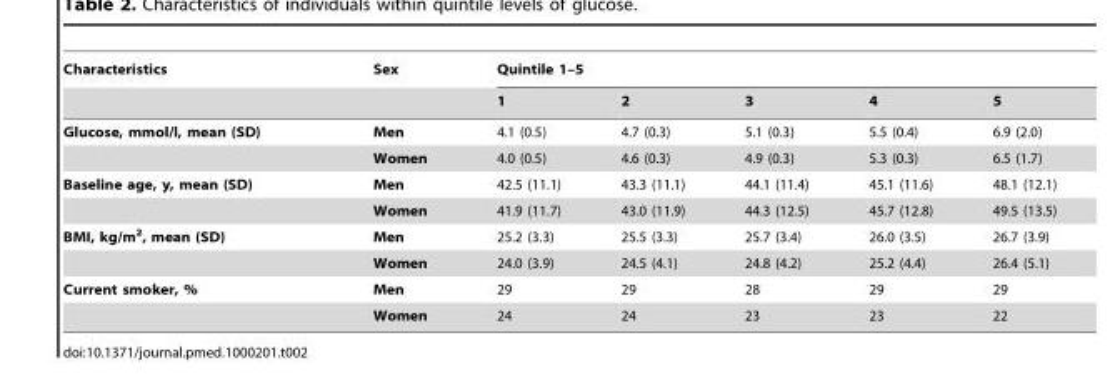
<table><thead><tr><td rowspan="2">Characteristics</td><td rowspan="2">Sex</td><td colspan="5">Quintile 1–5</td></tr><tr><td>1</td><td>2</td><td>3</td><td>4</td><td>5</td></tr></thead><tbody><tr><td rowspan="2">Glucose, mmol/l, mean (SD)</td><td>Men</td><td>4.1 (0.5)</td><td>4.7 (0.3)</td><td>5.1 (0.3)</td><td>5.5 (0.4)</td><td>6.9 (2.0)</td></tr><tr><td>Women</td><td>4.0 (0.5)</td><td>4.6 (0.3)</td><td>4.9 (0.3)</td><td>5.3 (0.3)</td><td>6.5 (1.7)</td></tr><tr><td rowspan="2">Baseline age, y, mean (SD)</td><td>Men</td><td>42.5 (11.1)</td><td>43.3 (11.1)</td><td>44.1 (11.4)</td><td>45.1 (11.6)</td><td>48.1 (12.1)</td></tr><tr><td>Women</td><td>41.9 (11.7)</td><td>43.0 (11.9)</td><td>44.3 (12.5)</td><td>45.7 (12.8)</td><td>49.5 (13.5)</td></tr><tr><td rowspan="2">BMI, kg/m<sup>2</sup>, mean (SD)</td><td>Men</td><td>25.2 (3.3)</td><td>25.5 (3.3)</td><td>25.7 (3.4)</td><td>26.0 (3.5)</td><td>26.7 (3.9)</td></tr><tr><td>Women</td><td>24.0 (3.9)</td><td>24.5 (4.1)</td><td>24.8 (4.2)</td><td>25.2 (4.4)</td><td>26.4 (5.1)</td></tr><tr><td rowspan="2">Current smoker, %</td><td>Men</td><td>29</td><td>29</td><td>28</td><td>29</td><td>29</td></tr><tr><td>Women</td><td>24</td><td>24</td><td>23</td><td>23</td><td>22</td></tr></tbody></table>